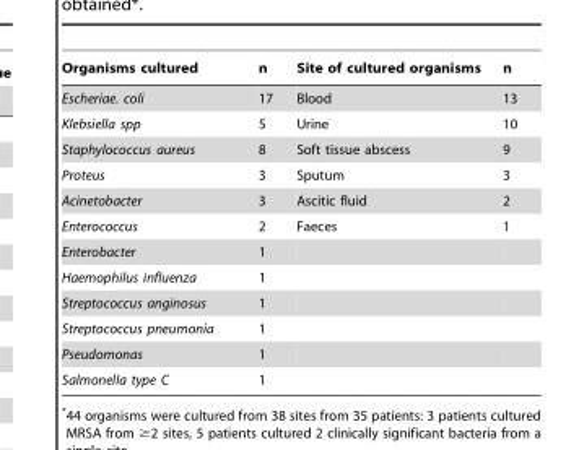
<table><thead><tr><td>Organisms cultured</td><td>n</td><td>Site of cultured organisms</td><td>n</td></tr></thead><tbody><tr><td>Escheriae. coli</td><td>17</td><td>Blood</td><td>13</td></tr><tr><td>Klebsiella spp</td><td>5</td><td>Urine</td><td>10</td></tr><tr><td>Staphylococcus aureus</td><td>8</td><td>Soft tissue abscess</td><td>9</td></tr><tr><td>Proteus</td><td>3</td><td>Sputum</td><td>3</td></tr><tr><td>Acinetobacter</td><td>3</td><td>Ascitic fluid</td><td>2</td></tr><tr><td>Enterococcus</td><td>2</td><td>Faeces</td><td>1</td></tr><tr><td>Enterobacter</td><td>1</td><td></td><td></td></tr><tr><td>Haemophilus influenza</td><td>1</td><td></td><td></td></tr><tr><td>Streptococcus anginosus</td><td>1</td><td></td><td></td></tr><tr><td>Streptococcus pneumonia</td><td>1</td><td></td><td></td></tr><tr><td>Pseudomonas</td><td>1</td><td></td><td></td></tr><tr><td>Salmonella type C</td><td>1</td><td></td><td></td></tr></tbody></table>